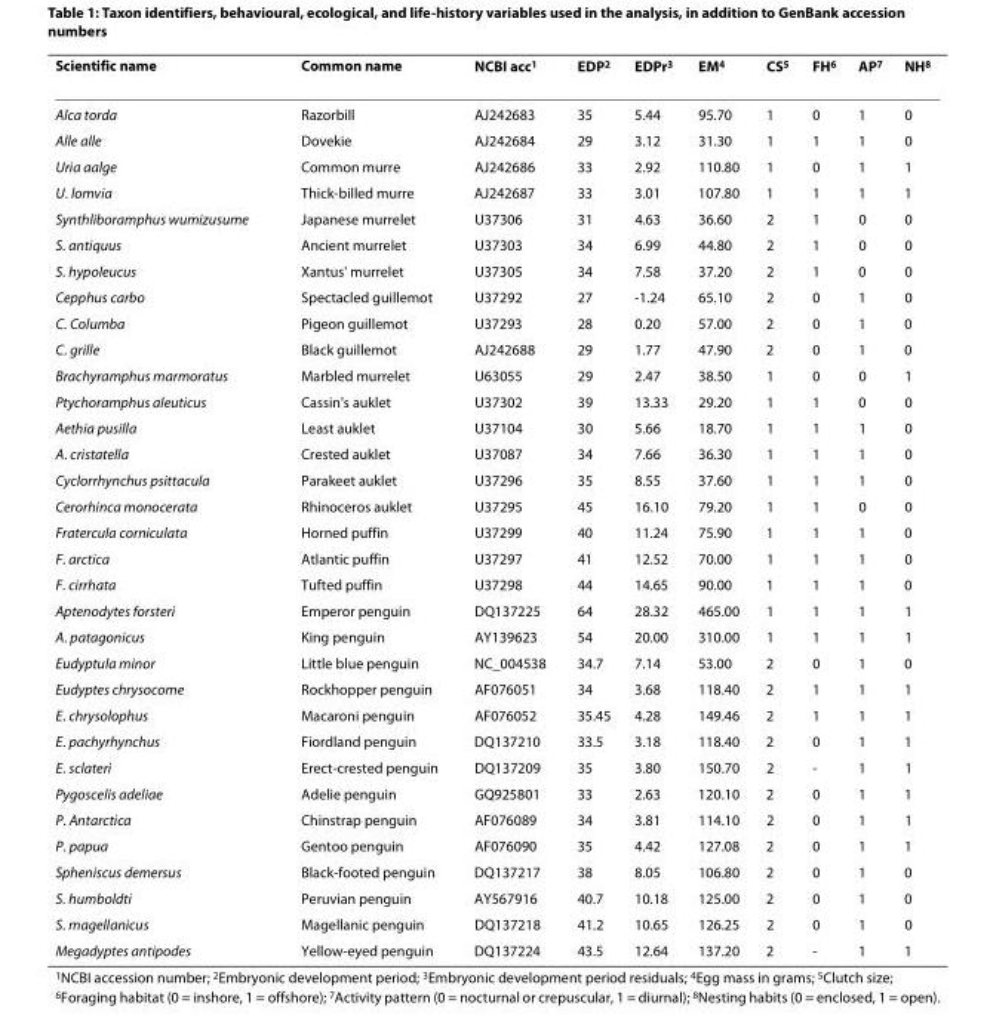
<table><thead><tr><td>Scientific name</td><td>Common name</td><td>NCBI acc<sup>1</sup></td><td>EDP<sup>2</sup></td><td>EDPr<sup>3</sup></td><td>EM<sup>4</sup></td><td>CS<sup>5</sup></td><td>FH<sup>6</sup></td><td>AP<sup>7</sup></td><td>NH<sup>8</sup></td></tr></thead><tbody><tr><td>Alca torda</td><td>Razorbill</td><td>AJ242683</td><td>35</td><td>5.44</td><td>95.70</td><td>1</td><td>0</td><td>1</td><td>0</td></tr><tr><td>Alle alle</td><td>Dovekie</td><td>AJ242684</td><td>29</td><td>3.12</td><td>31.30</td><td>1</td><td>1</td><td>1</td><td>0</td></tr><tr><td>Uria aalge</td><td>Common murre</td><td>AJ242686</td><td>33</td><td>2.92</td><td>110.80</td><td>1</td><td>0</td><td>1</td><td>1</td></tr><tr><td>U. lomvia</td><td>Thick-billed murre</td><td>AJ242687</td><td>33</td><td>3.01</td><td>107.80</td><td>1</td><td>1</td><td>1</td><td>1</td></tr><tr><td>Synthliboramphus wumizusume</td><td>Japanese murrelet</td><td>U37306</td><td>31</td><td>4.63</td><td>36.60</td><td>2</td><td>1</td><td>0</td><td>0</td></tr><tr><td>S. antiquus</td><td>Ancient murrelet</td><td>U37303</td><td>34</td><td>6.99</td><td>44.80</td><td>2</td><td>1</td><td>0</td><td>0</td></tr><tr><td>S. hypoleucus</td><td>Xantus&#x27; murrelet</td><td>U37305</td><td>34</td><td>7.58</td><td>37.20</td><td>2</td><td>1</td><td>0</td><td>0</td></tr><tr><td>Cepphus carbo</td><td>Spectacled guillemot</td><td>U37292</td><td>27</td><td>-1.24</td><td>65.10</td><td>2</td><td>0</td><td>1</td><td>0</td></tr><tr><td>C. Columba</td><td>Pigeon guillemot</td><td>U37293</td><td>28</td><td>0.20</td><td>57.00</td><td>2</td><td>0</td><td>1</td><td>0</td></tr><tr><td>C. grille</td><td>Black guillemot</td><td>AJ242688</td><td>29</td><td>1.77</td><td>47.90</td><td>2</td><td>0</td><td>1</td><td>0</td></tr><tr><td>Brachyramphus marmoratus</td><td>Marbled murrelet</td><td>U63055</td><td>29</td><td>2.47</td><td>38.50</td><td>1</td><td>0</td><td>0</td><td>1</td></tr><tr><td>Ptychoramphus aleuticus</td><td>Cassin&#x27;s auklet</td><td>U37302</td><td>39</td><td>13.33</td><td>29.20</td><td>1</td><td>1</td><td>0</td><td>0</td></tr><tr><td>Aethia pusilla</td><td>Least auklet</td><td>U37104</td><td>30</td><td>5.66</td><td>18.70</td><td>1</td><td>1</td><td>1</td><td>0</td></tr><tr><td>A. cristatella</td><td>Crested auklet</td><td>U37087</td><td>34</td><td>7.66</td><td>36.30</td><td>1</td><td>1</td><td>1</td><td>0</td></tr><tr><td>Cyclorrhynchus psittacula</td><td>Parakeet auklet</td><td>U37296</td><td>35</td><td>8.55</td><td>37.60</td><td>1</td><td>1</td><td>1</td><td>0</td></tr><tr><td>Cerorhinca monocerata</td><td>Rhinoceros auklet</td><td>U37295</td><td>45</td><td>16.10</td><td>79.20</td><td>1</td><td>1</td><td>0</td><td>0</td></tr><tr><td>Fratercula corniculata</td><td>Horned puffin</td><td>U37299</td><td>40</td><td>11.24</td><td>75.90</td><td>1</td><td>1</td><td>1</td><td>0</td></tr><tr><td>F. arctica</td><td>Atlantic puffin</td><td>U37297</td><td>41</td><td>12.52</td><td>70.00</td><td>1</td><td>1</td><td>1</td><td>0</td></tr><tr><td>F. cirrhata</td><td>Tufted puffin</td><td>U37298</td><td>44</td><td>14.65</td><td>90.00</td><td>1</td><td>1</td><td>1</td><td>0</td></tr><tr><td>Aptenodytes forsteri</td><td>Emperor penguin</td><td>DQ137225</td><td>64</td><td>28.32</td><td>465.00</td><td>1</td><td>1</td><td>1</td><td>1</td></tr><tr><td>A. patagonicus</td><td>King penguin</td><td>AY139623</td><td>54</td><td>20.00</td><td>310.00</td><td>1</td><td>1</td><td>1</td><td>1</td></tr><tr><td>Eudyptula minor</td><td>Little blue penguin</td><td>NC_004538</td><td>34.7</td><td>7.14</td><td>53.00</td><td>2</td><td>0</td><td>1</td><td>0</td></tr><tr><td>Eudyptes chrysocome</td><td>Rockhopper penguin</td><td>AF076051</td><td>34</td><td>3.68</td><td>118.40</td><td>2</td><td>1</td><td>1</td><td>1</td></tr><tr><td>E. chrysolophus</td><td>Macaroni penguin</td><td>AF076052</td><td>35.45</td><td>4.28</td><td>149.46</td><td>2</td><td>1</td><td>1</td><td>1</td></tr><tr><td>E. pachyrhynchus</td><td>Fiordland penguin</td><td>DQ137210</td><td>33.5</td><td>3.18</td><td>118.40</td><td>2</td><td>0</td><td>1</td><td>1</td></tr><tr><td>E. sclateri</td><td>Erect-crested penguin</td><td>DQ137209</td><td>35</td><td>3.80</td><td>150.70</td><td>2</td><td>-</td><td>1</td><td>1</td></tr><tr><td>Pygoscelis adeliae</td><td>Adelie penguin</td><td>GQ925801</td><td>33</td><td>2.63</td><td>120.10</td><td>2</td><td>0</td><td>1</td><td>1</td></tr><tr><td>P. Antarctica</td><td>Chinstrap penguin</td><td>AF076089</td><td>34</td><td>3.81</td><td>114.10</td><td>2</td><td>0</td><td>1</td><td>1</td></tr><tr><td>P. papua</td><td>Gentoo penguin</td><td>AF076090</td><td>35</td><td>4.42</td><td>127.08</td><td>2</td><td>0</td><td>1</td><td>1</td></tr><tr><td>Spheniscus demersus</td><td>Black-footed penguin</td><td>DQ137217</td><td>38</td><td>8.05</td><td>106.80</td><td>2</td><td>0</td><td>1</td><td>0</td></tr><tr><td>S. humboldti</td><td>Peruvian penguin</td><td>AY567916</td><td>40.7</td><td>10.18</td><td>125.00</td><td>2</td><td>0</td><td>1</td><td>0</td></tr><tr><td>S. magellanicus</td><td>Magellanic penguin</td><td>DQ137218</td><td>41.2</td><td>10.65</td><td>126.25</td><td>2</td><td>0</td><td>1</td><td>0</td></tr><tr><td>Megadyptes antipodes</td><td>Yellow-eyed penguin</td><td>DQ137224</td><td>43.5</td><td>12.64</td><td>137.20</td><td>2</td><td>-</td><td>1</td><td>1</td></tr></tbody></table>